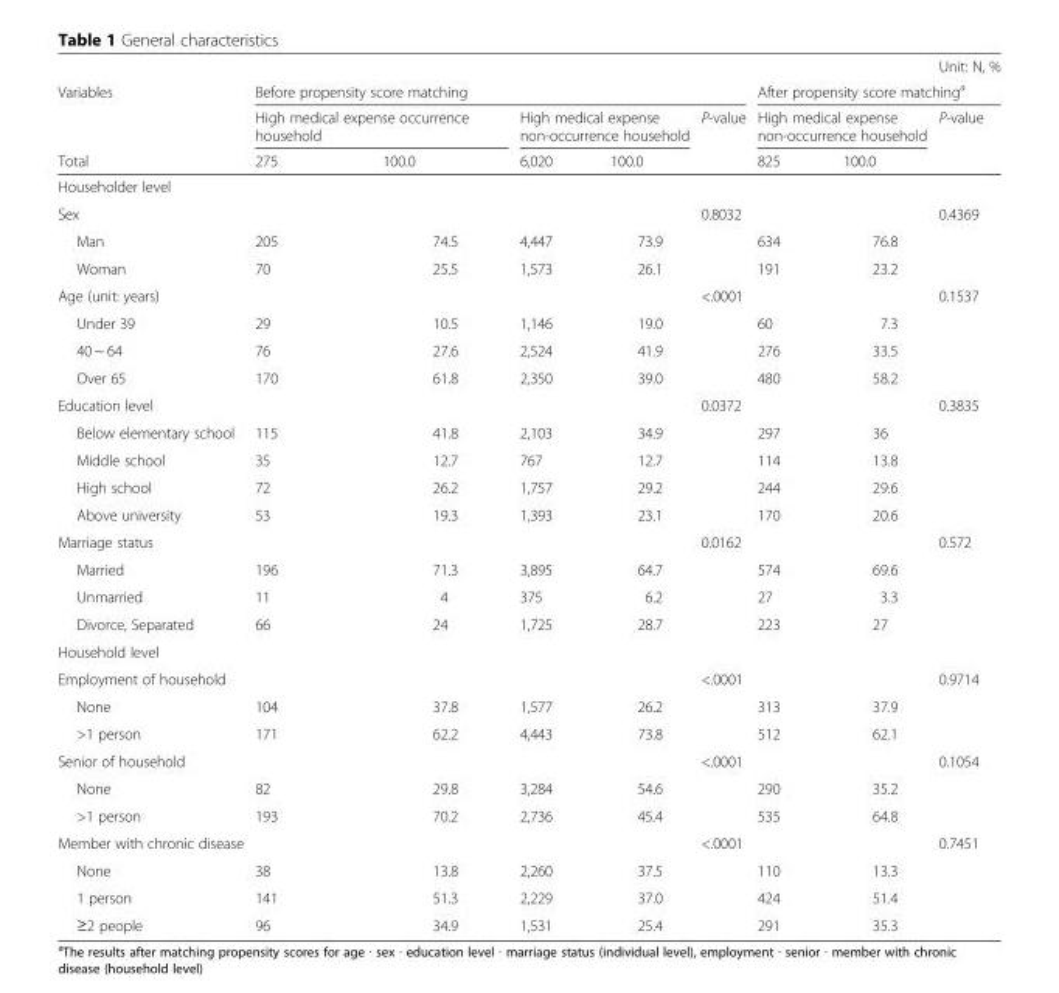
<table><thead><tr><td rowspan="4">Variables Total</td><td></td><td></td><td></td><td></td><td></td><td></td><td></td><td>Unit: N, %</td></tr><tr><td colspan="5">Before propensity score matching</td><td colspan="3">After propensity score matching<sup>a</sup></td></tr><tr><td colspan="2">High medical expense occurrence household</td><td colspan="2">High medical expense non-occurrence household</td><td rowspan="2">P-value</td><td colspan="2">High medical expense non-occurrence household</td><td rowspan="2">P-value</td></tr><tr><td>275</td><td>100.0</td><td>6,020</td><td>100.0</td><td>825</td><td>100.0</td></tr></thead><tbody><tr><td colspan="9">Householder level</td></tr><tr><td>Sex</td><td></td><td></td><td></td><td></td><td>0.8032</td><td></td><td></td><td>0.4369</td></tr><tr><td>Man</td><td>205</td><td>74.5</td><td>4,447</td><td>73.9</td><td></td><td>634</td><td>76.8</td><td></td></tr><tr><td>Woman</td><td>70</td><td>25.5</td><td>1,573</td><td>26.1</td><td></td><td>191</td><td>23.2</td><td></td></tr><tr><td>Age (unit: years)</td><td></td><td></td><td></td><td></td><td>&lt;.0001</td><td></td><td></td><td>0.1537</td></tr><tr><td>Under 39</td><td>29</td><td>10.5</td><td>1,146</td><td>19.0</td><td></td><td>60</td><td>7.3</td><td></td></tr><tr><td>40 ~ 64</td><td>76</td><td>27.6</td><td>2,524</td><td>41.9</td><td></td><td>276</td><td>33.5</td><td></td></tr><tr><td>Over 65</td><td>170</td><td>61.8</td><td>2,350</td><td>39.0</td><td></td><td>480</td><td>58.2</td><td></td></tr><tr><td>Education level</td><td></td><td></td><td></td><td></td><td>0.0372</td><td></td><td></td><td>0.3835</td></tr><tr><td>Below elementary school</td><td>115</td><td>41.8</td><td>2,103</td><td>34.9</td><td></td><td>297</td><td>36</td><td></td></tr><tr><td>Middle school</td><td>35</td><td>12.7</td><td>767</td><td>12.7</td><td></td><td>114</td><td>13.8</td><td></td></tr><tr><td>High school</td><td>72</td><td>26.2</td><td>1,757</td><td>29.2</td><td></td><td>244</td><td>29.6</td><td></td></tr><tr><td>Above university</td><td>53</td><td>19.3</td><td>1,393</td><td>23.1</td><td></td><td>170</td><td>20.6</td><td></td></tr><tr><td>Marriage status</td><td></td><td></td><td></td><td></td><td>0.0162</td><td></td><td></td><td>0.572</td></tr><tr><td>Married</td><td>196</td><td>71.3</td><td>3,895</td><td>64.7</td><td></td><td>574</td><td>69.6</td><td></td></tr><tr><td>Unmarried</td><td>11</td><td>4</td><td>375</td><td>6.2</td><td></td><td>27</td><td>3.3</td><td></td></tr><tr><td>Divorce, Separated</td><td>66</td><td>24</td><td>1,725</td><td>28.7</td><td></td><td>223</td><td>27</td><td></td></tr><tr><td colspan="9">Household level</td></tr><tr><td>Employment of household</td><td></td><td></td><td></td><td></td><td>&lt;.0001</td><td></td><td></td><td>0.9714</td></tr><tr><td>None</td><td>104</td><td>37.8</td><td>1,577</td><td>26.2</td><td></td><td>313</td><td>37.9</td><td></td></tr><tr><td>&gt;1 person</td><td>171</td><td>62.2</td><td>4,443</td><td>73.8</td><td></td><td>512</td><td>62.1</td><td></td></tr><tr><td>Senior of household</td><td></td><td></td><td></td><td></td><td>&lt;.0001</td><td></td><td></td><td>0.1054</td></tr><tr><td>None</td><td>82</td><td>29.8</td><td>3,284</td><td>54.6</td><td></td><td>290</td><td>35.2</td><td></td></tr><tr><td>&gt;1 person</td><td>193</td><td>70.2</td><td>2,736</td><td>45.4</td><td></td><td>535</td><td>64.8</td><td></td></tr><tr><td>Member with chronic disease</td><td></td><td></td><td></td><td></td><td>&lt;.0001</td><td></td><td></td><td>0.7451</td></tr><tr><td>None</td><td>38</td><td>13.8</td><td>2,260</td><td>37.5</td><td></td><td>110</td><td>13.3</td><td></td></tr><tr><td>1 person</td><td>141</td><td>51.3</td><td>2,229</td><td>37.0</td><td></td><td>424</td><td>51.4</td><td></td></tr><tr><td>≥2 people</td><td>96</td><td>34.9</td><td>1,531</td><td>25.4</td><td></td><td>291</td><td>35.3</td><td></td></tr></tbody></table>